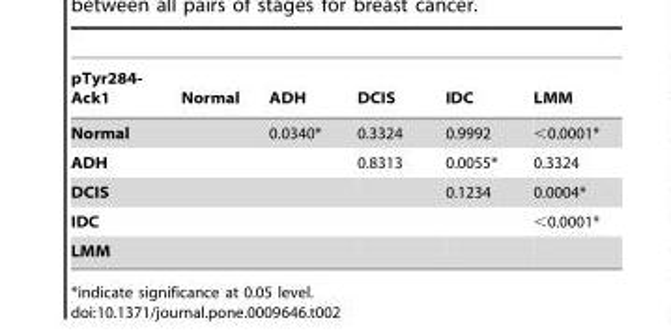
<table><thead><tr><td>pTyr284- Ack1</td><td>Normal</td><td>ADH</td><td>DCIS</td><td>IDC</td><td>LMM</td></tr></thead><tbody><tr><td>Normal</td><td></td><td>0.0340*</td><td>0.3324</td><td>0.9992</td><td>&lt;0.0001*</td></tr><tr><td>ADH</td><td></td><td></td><td>0.8313</td><td>0.0055*</td><td>0.3324</td></tr><tr><td>DCIS</td><td></td><td></td><td></td><td>0.1234</td><td>0.0004*</td></tr><tr><td>IDC</td><td></td><td></td><td></td><td></td><td>&lt;0.0001*</td></tr><tr><td>LMM</td><td></td><td></td><td></td><td></td><td></td></tr></tbody></table>